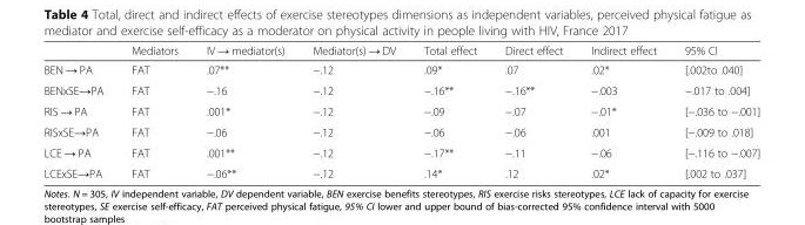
<table><thead><tr><td></td><td>Mediators</td><td>IV → mediator(s)</td><td>Mediator(s) → DV</td><td>Total effect</td><td>Direct effect</td><td>Indirect effect</td><td>95% CI</td></tr></thead><tbody><tr><td>BEN → PA</td><td>FAT</td><td>.07**</td><td>−.12</td><td>.09*</td><td>.07</td><td>.02*</td><td>[.002to .040]</td></tr><tr><td>BENxSE→PA</td><td>FAT</td><td>−.16</td><td>−.12</td><td>−.16**</td><td>−.16**</td><td>−.003</td><td>−.017 to .004]</td></tr><tr><td>RIS → PA</td><td>FAT</td><td>.001*</td><td>−.12</td><td>−.09</td><td>−.07</td><td>−.01*</td><td>[−.036 to −.001]</td></tr><tr><td>RISxSE→PA</td><td>FAT</td><td>−.06</td><td>−.12</td><td>−.06</td><td>−.06</td><td>.001</td><td>[−.009 to .018]</td></tr><tr><td>LCE → PA</td><td>FAT</td><td>.001**</td><td>−.12</td><td>−.17**</td><td>−.11</td><td>−.06</td><td>[−.116 to −.007]</td></tr><tr><td>LCExSE→PA</td><td>FAT</td><td>−.06**</td><td>−.12</td><td>.14*</td><td>.12</td><td>.02*</td><td>[.002 to .037]</td></tr></tbody></table>